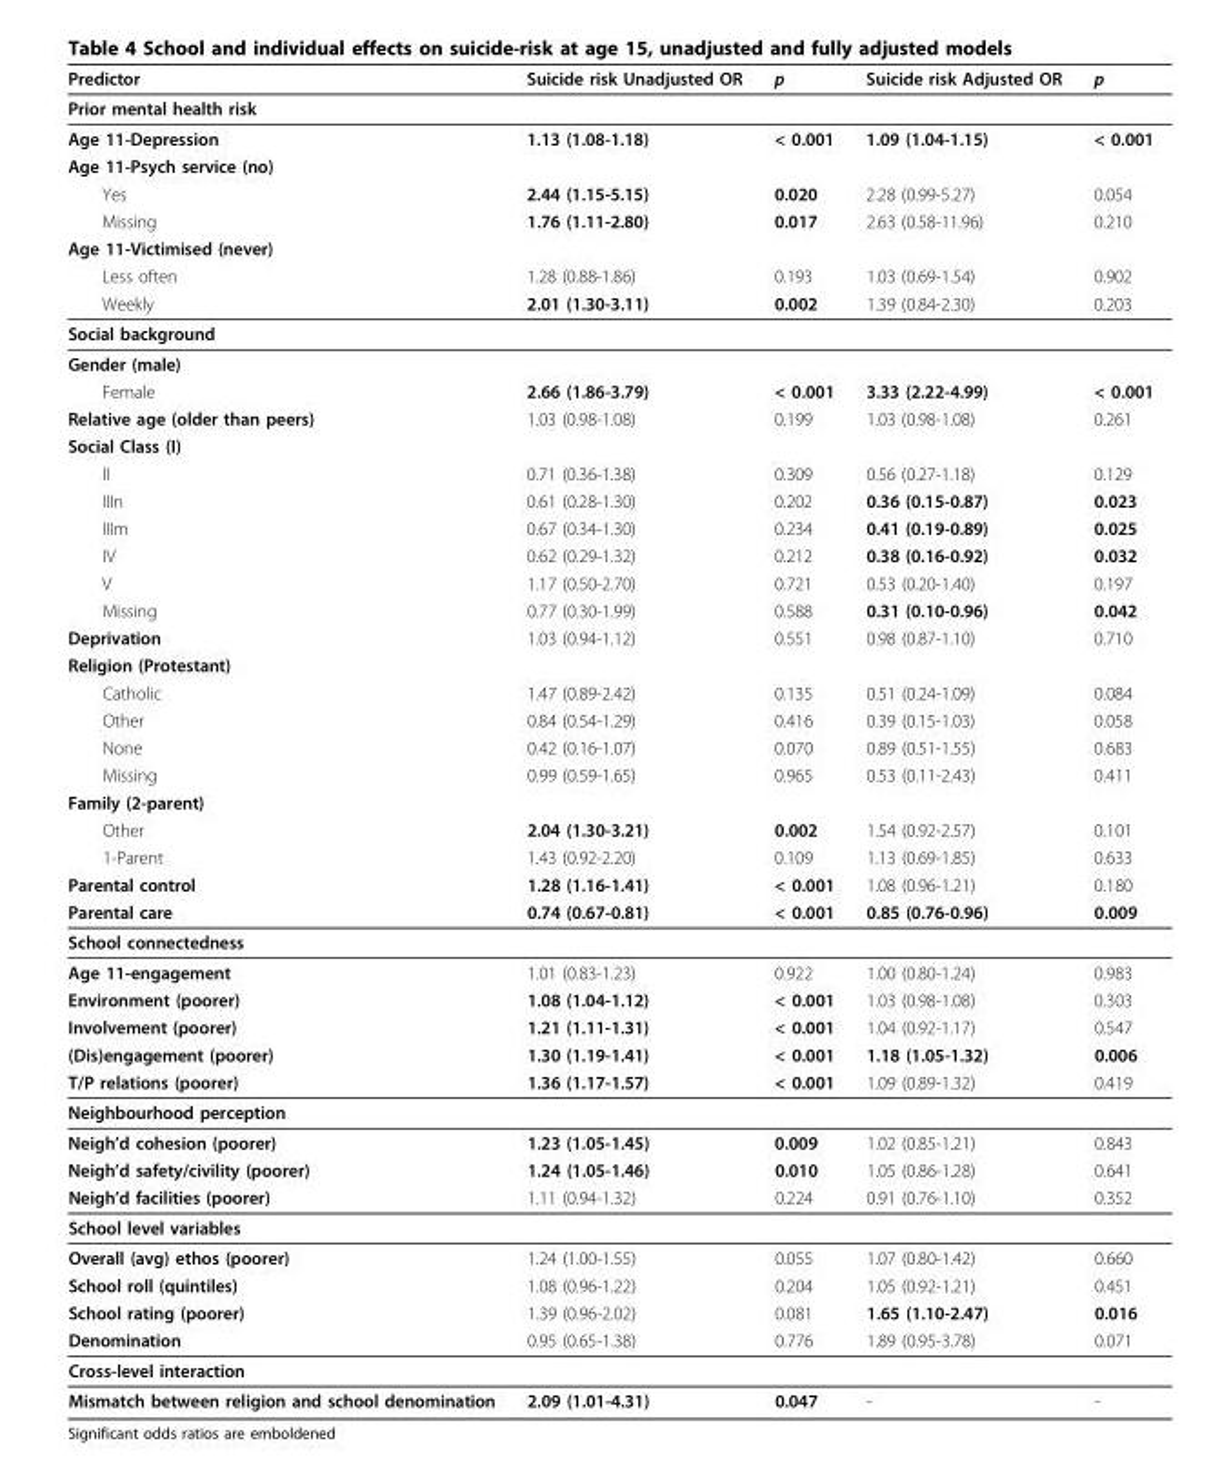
<table><thead><tr><td>Predictor</td><td>Suicide risk Unadjusted OR</td><td>p</td><td>Suicide risk Adjusted OR</td><td>p</td></tr></thead><tbody><tr><td colspan="5">Prior mental health risk</td></tr><tr><td>Age 11-Depression</td><td>1.13 (1.08-1.18)</td><td>&lt; 0.001</td><td>1.09 (1.04-1.15)</td><td>&lt; 0.001</td></tr><tr><td colspan="5">Age 11-Psych service (no)</td></tr><tr><td>Yes</td><td>2.44 (1.15-5.15)</td><td>0.020</td><td>2.28 (0.99-5.27)</td><td>0.054</td></tr><tr><td>Missing</td><td>1.76 (1.11-2.80)</td><td>0.017</td><td>2.63 (0.58-11.96)</td><td>0.210</td></tr><tr><td colspan="5">Age 11-Victimised (never)</td></tr><tr><td>Less often</td><td>1.28 (0.88-1.86)</td><td>0.193</td><td>1.03 (0.69-1.54)</td><td>0.902</td></tr><tr><td>Weekly</td><td>2.01 (1.30-3.11)</td><td>0.002</td><td>1.39 (0.84-2.30)</td><td>0.203</td></tr><tr><td colspan="5">Social background</td></tr><tr><td colspan="5">Gender (male)</td></tr><tr><td>Female</td><td>2.66 (1.86-3.79)</td><td>&lt; 0.001</td><td>3.33 (2.22-4.99)</td><td>&lt; 0.001</td></tr><tr><td>Relative age (older than peers)</td><td>1.03 (0.98-1.08)</td><td>0.199</td><td>1.03 (0.98-1.08)</td><td>0.261</td></tr><tr><td colspan="5">Social Class (I)</td></tr><tr><td>II</td><td>0.71 (0.36-1.38)</td><td>0.309</td><td>0.56 (0.27-1.18)</td><td>0.129</td></tr><tr><td>IIIn</td><td>0.61 (0.28-1.30)</td><td>0.202</td><td>0.36 (0.15-0.87)</td><td>0.023</td></tr><tr><td>IIIm</td><td>0.67 (0.34-1.30)</td><td>0.234</td><td>0.41 (0.19-0.89)</td><td>0.025</td></tr><tr><td>IV</td><td>0.62 (0.29-1.32)</td><td>0.212</td><td>0.38 (0.16-0.92)</td><td>0.032</td></tr><tr><td>V</td><td>1.17 (0.50-2.70)</td><td>0.721</td><td>0.53 (0.20-1.40)</td><td>0.197</td></tr><tr><td>Missing</td><td>0.77 (0.30-1.99)</td><td>0.588</td><td>0.31 (0.10-0.96)</td><td>0.042</td></tr><tr><td>Deprivation</td><td>1.03 (0.94-1.12)</td><td>0.551</td><td>0.98 (0.87-1.10)</td><td>0.710</td></tr><tr><td colspan="5">Religion (Protestant)</td></tr><tr><td>Catholic</td><td>1.47 (0.89-2.42)</td><td>0.135</td><td>0.51 (0.24-1.09)</td><td>0.084</td></tr><tr><td>Other</td><td>0.84 (0.54-1.29)</td><td>0.416</td><td>0.39 (0.15-1.03)</td><td>0.058</td></tr><tr><td>None</td><td>0.42 (0.16-1.07)</td><td>0.070</td><td>0.89 (0.51-1.55)</td><td>0.683</td></tr><tr><td>Missing</td><td>0.99 (0.59-1.65)</td><td>0.965</td><td>0.53 (0.11-2.43)</td><td>0.411</td></tr><tr><td colspan="5">Family (2-parent)</td></tr><tr><td>Other</td><td>2.04 (1.30-3.21)</td><td>0.002</td><td>1.54 (0.92-2.57)</td><td>0.101</td></tr><tr><td>1-Parent</td><td>1.43 (0.92-2.20)</td><td>0.109</td><td>1.13 (0.69-1.85)</td><td>0.633</td></tr><tr><td>Parental control</td><td>1.28 (1.16-1.41)</td><td>&lt; 0.001</td><td>1.08 (0.96-1.21)</td><td>0.180</td></tr><tr><td>Parental care</td><td>0.74 (0.67-0.81)</td><td>&lt; 0.001</td><td>0.85 (0.76-0.96)</td><td>0.009</td></tr><tr><td colspan="5">School connectedness</td></tr><tr><td>Age 11-engagement</td><td>1.01 (0.83-1.23)</td><td>0.922</td><td>1.00 (0.80-1.24)</td><td>0.983</td></tr><tr><td>Environment (poorer)</td><td>1.08 (1.04-1.12)</td><td>&lt; 0.001</td><td>1.03 (0.98-1.08)</td><td>0.303</td></tr><tr><td>Involvement (poorer)</td><td>1.21 (1.11-1.31)</td><td>&lt; 0.001</td><td>1.04 (0.92-1.17)</td><td>0.547</td></tr><tr><td>(Dis)engagement (poorer)</td><td>1.30 (1.19-1.41)</td><td>&lt; 0.001</td><td>1.18 (1.05-1.32)</td><td>0.006</td></tr><tr><td>T/P relations (poorer)</td><td>1.36 (1.17-1.57)</td><td>&lt; 0.001</td><td>1.09 (0.89-1.32)</td><td>0.419</td></tr><tr><td colspan="5">Neighbourhood perception</td></tr><tr><td>Neigh’d cohesion (poorer)</td><td>1.23 (1.05-1.45)</td><td>0.009</td><td>1.02 (0.85-1.21)</td><td>0.843</td></tr><tr><td>Neigh’d safety/civility (poorer)</td><td>1.24 (1.05-1.46)</td><td>0.010</td><td>1.05 (0.86-1.28)</td><td>0.641</td></tr><tr><td>Neigh’d facilities (poorer)</td><td>1.11 (0.94-1.32)</td><td>0.224</td><td>0.91 (0.76-1.10)</td><td>0.352</td></tr><tr><td colspan="5">School level variables</td></tr><tr><td>Overall (avg) ethos (poorer)</td><td>1.24 (1.00-1.55)</td><td>0.055</td><td>1.07 (0.80-1.42)</td><td>0.660</td></tr><tr><td>School roll (quintiles)</td><td>1.08 (0.96-1.22)</td><td>0.204</td><td>1.05 (0.92-1.21)</td><td>0.451</td></tr><tr><td>School rating (poorer)</td><td>1.39 (0.96-2.02)</td><td>0.081</td><td>1.65 (1.10-2.47)</td><td>0.016</td></tr><tr><td>Denomination</td><td>0.95 (0.65-1.38)</td><td>0.776</td><td>1.89 (0.95-3.78)</td><td>0.071</td></tr><tr><td colspan="5">Cross-level interaction</td></tr><tr><td>Mismatch between religion and school denomination</td><td>2.09 (1.01-4.31)</td><td>0.047</td><td>-</td><td>-</td></tr></tbody></table>